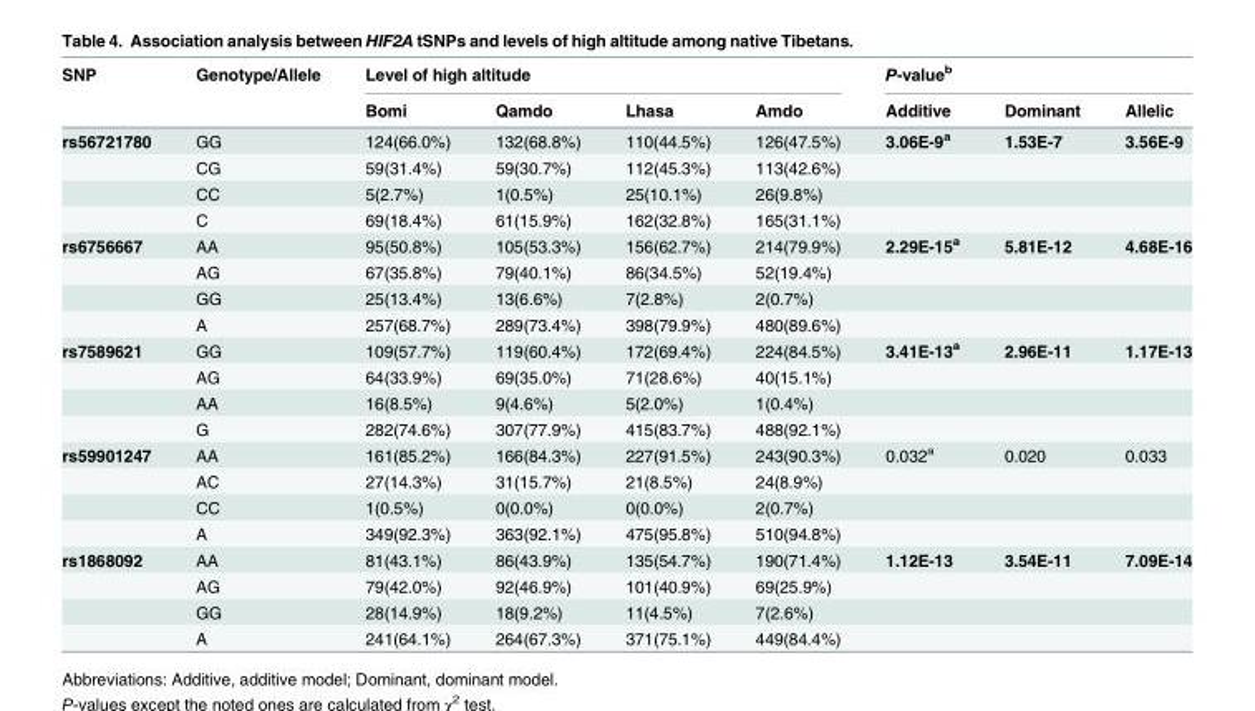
<table><thead><tr><td rowspan="2">SNP</td><td rowspan="2">Genotype/Allele</td><td colspan="4">Level of high altitude</td><td colspan="3">P-value<sup>b</sup></td></tr><tr><td>Bomi</td><td>Qamdo</td><td>Lhasa</td><td>Amdo</td><td>Additive</td><td>Dominant</td><td>Allelic</td></tr></thead><tbody><tr><td rowspan="4">rs56721780</td><td>GG</td><td>124(66.0%)</td><td>132(68.8%)</td><td>110(44.5%)</td><td>126(47.5%)</td><td>3.06E-9<sup>a</sup></td><td>1.53E-7</td><td>3.56E-9</td></tr><tr><td>CG</td><td>59(31.4%)</td><td>59(30.7%)</td><td>112(45.3%)</td><td>113(42.6%)</td><td></td><td></td><td></td></tr><tr><td>CC</td><td>5(2.7%)</td><td>1(0.5%)</td><td>25(10.1%)</td><td>26(9.8%)</td><td></td><td></td><td></td></tr><tr><td>C</td><td>69(18.4%)</td><td>61(15.9%)</td><td>162(32.8%)</td><td>165(31.1%)</td><td></td><td></td><td></td></tr><tr><td rowspan="4">rs6756667</td><td>AA</td><td>95(50.8%)</td><td>105(53.3%)</td><td>156(62.7%)</td><td>214(79.9%)</td><td>2.29E-15<sup>a</sup></td><td>5.81E-12</td><td>4.68E-16</td></tr><tr><td>AG</td><td>67(35.8%)</td><td>79(40.1%)</td><td>86(34.5%)</td><td>52(19.4%)</td><td></td><td></td><td></td></tr><tr><td>GG</td><td>25(13.4%)</td><td>13(6.6%)</td><td>7(2.8%)</td><td>2(0.7%)</td><td></td><td></td><td></td></tr><tr><td>A</td><td>257(68.7%)</td><td>289(73.4%)</td><td>398(79.9%)</td><td>480(89.6%)</td><td></td><td></td><td></td></tr><tr><td rowspan="4">rs7589621</td><td>GG</td><td>109(57.7%)</td><td>119(60.4%)</td><td>172(69.4%)</td><td>224(84.5%)</td><td>3.41E-13<sup>a</sup></td><td>2.96E-11</td><td>1.17E-13</td></tr><tr><td>AG</td><td>64(33.9%)</td><td>69(35.0%)</td><td>71(28.6%)</td><td>40(15.1%)</td><td></td><td></td><td></td></tr><tr><td>AA</td><td>16(8.5%)</td><td>9(4.6%)</td><td>5(2.0%)</td><td>1(0.4%)</td><td></td><td></td><td></td></tr><tr><td>G</td><td>282(74.6%)</td><td>307(77.9%)</td><td>415(83.7%)</td><td>488(92.1%)</td><td></td><td></td><td></td></tr><tr><td rowspan="4">rs59901247</td><td>AA</td><td>161(85.2%)</td><td>166(84.3%)</td><td>227(91.5%)</td><td>243(90.3%)</td><td>0.032<sup>a</sup></td><td>0.020</td><td>0.033</td></tr><tr><td>AC</td><td>27(14.3%)</td><td>31(15.7%)</td><td>21(8.5%)</td><td>24(8.9%)</td><td></td><td></td><td></td></tr><tr><td>CC</td><td>1(0.5%)</td><td>0(0.0%)</td><td>0(0.0%)</td><td>2(0.7%)</td><td></td><td></td><td></td></tr><tr><td>A</td><td>349(92.3%)</td><td>363(92.1%)</td><td>475(95.8%)</td><td>510(94.8%)</td><td></td><td></td><td></td></tr><tr><td rowspan="4">rs1868092</td><td>AA</td><td>81(43.1%)</td><td>86(43.9%)</td><td>135(54.7%)</td><td>190(71.4%)</td><td>1.12E-13</td><td>3.54E-11</td><td>7.09E-14</td></tr><tr><td>AG</td><td>79(42.0%)</td><td>92(46.9%)</td><td>101(40.9%)</td><td>69(25.9%)</td><td></td><td></td><td></td></tr><tr><td>GG</td><td>28(14.9%)</td><td>18(9.2%)</td><td>11(4.5%)</td><td>7(2.6%)</td><td></td><td></td><td></td></tr><tr><td>A</td><td>241(64.1%)</td><td>264(67.3%)</td><td>371(75.1%)</td><td>449(84.4%)</td><td></td><td></td><td></td></tr></tbody></table>